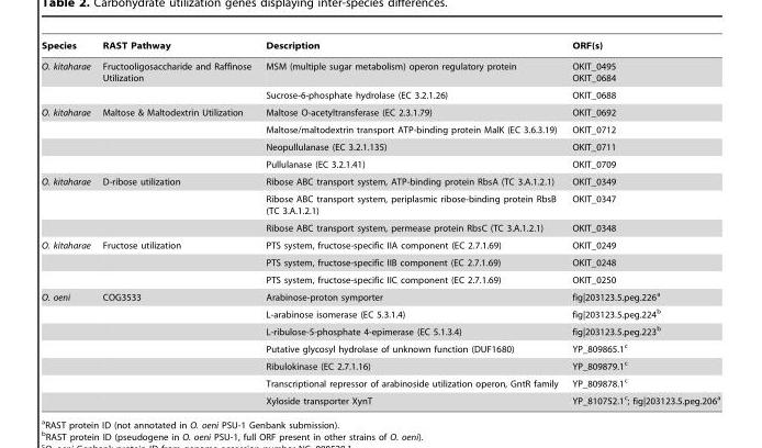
<table><thead><tr><td>Species</td><td>RAST Pathway</td><td>Description</td><td>ORF(s)</td></tr></thead><tbody><tr><td rowspan="2">O. kitaharae</td><td>Fructooligosaccharide and Raffinose Utilization</td><td>MSM (multiple sugar metabolism) operon regulatory protein</td><td>OKIT_0495 OKIT_0684</td></tr><tr><td></td><td>Sucrose-6-phosphate hydrolase (EC 3.2.1.26)</td><td>OKIT_0688</td></tr><tr><td rowspan="4">O. kitaharae</td><td>Maltose &amp; Maltodextrin Utilization</td><td>Maltose O-acetyltransferase (EC 2.3.1.79)</td><td>OKIT_0692</td></tr><tr><td></td><td>Maltose/maltodextrin transport ATP-binding protein MalK (EC 3.6.3.19)</td><td>OKIT_0712</td></tr><tr><td></td><td>Neopullulanase (EC 3.2.1.135)</td><td>OKIT_0711</td></tr><tr><td></td><td>Pullulanase (EC 3.2.1.41)</td><td>OKIT_0709</td></tr><tr><td rowspan="3">O. kitaharae</td><td>D-ribose utilization</td><td>Ribose ABC transport system, ATP-binding protein RbsA (TC 3.A.1.2.1)</td><td>OKIT_0349</td></tr><tr><td></td><td>Ribose ABC transport system, periplasmic ribose-binding protein RbsB (TC 3.A.1.2.1)</td><td>OKIT_0347</td></tr><tr><td></td><td>Ribose ABC transport system, permease protein RbsC (TC 3.A.1.2.1)</td><td>OKIT_0348</td></tr><tr><td rowspan="3">O. kitaharae</td><td>Fructose utilization</td><td>PTS system, fructose-specific IIA component (EC 2.7.1.69)</td><td>OKIT_0249</td></tr><tr><td></td><td>PTS system, fructose-specific IIB component (EC 2.7.1.69)</td><td>OKIT_0248</td></tr><tr><td></td><td>PTS system, fructose-specific IIC component (EC 2.7.1.69)</td><td>OKIT_0250</td></tr><tr><td rowspan="7">O. oeni</td><td>COG3533</td><td>Arabinose-proton symporter</td><td>fig|203123.5.peg.226<sup>a</sup></td></tr><tr><td></td><td>L-arabinose isomerase (EC 5.3.1.4)</td><td>fig|203123.5.peg.224<sup>b</sup></td></tr><tr><td></td><td>L-ribulose-5-phosphate 4-epimerase (EC 5.1.3.4)</td><td>fig|203123.5.peg.223<sup>b</sup></td></tr><tr><td></td><td>Putative glycosyl hydrolase of unknown function (DUF1680)</td><td>YP_809865.1<sup>c</sup></td></tr><tr><td></td><td>Ribulokinase (EC 2.7.1.16)</td><td>YP_809879.1<sup>c</sup></td></tr><tr><td></td><td>Transcriptional repressor of arabinoside utilization operon, GntR family</td><td>YP_809878.1<sup>c</sup></td></tr><tr><td></td><td>Xyloside transporter XynT</td><td>YP_810752.1<sup>c</sup>; fig|203123.5.peg.206<sup>a</sup></td></tr></tbody></table>